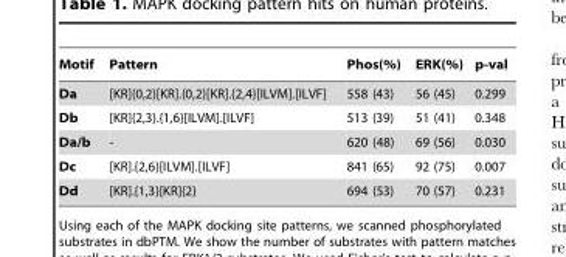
<table><thead><tr><td>Motif</td><td>Pattern</td><td>Phos(%)</td><td>ERK(%)</td><td>p-val</td></tr></thead><tbody><tr><td>Da</td><td>[KR]{0,2}[KR].{0,2}[KR].{2,4}[ILVM].[ILVF]</td><td>558 (43)</td><td>56 (45)</td><td>0.299</td></tr><tr><td>Db</td><td>[KR]{2,3}.{1,6}[ILVM].[ILVF]</td><td>513 (39)</td><td>51 (41)</td><td>0.348</td></tr><tr><td>Da/b</td><td>-</td><td>620 (48)</td><td>69 (56)</td><td>0.030</td></tr><tr><td>Dc</td><td>[KR].{2,6}[ILVM].[ILVF]</td><td>841 (65)</td><td>92 (75)</td><td>0.007</td></tr><tr><td>Dd</td><td>[KR].{1,3}[KR]{2}</td><td>694 (53)</td><td>70 (57)</td><td>0.231</td></tr></tbody></table>